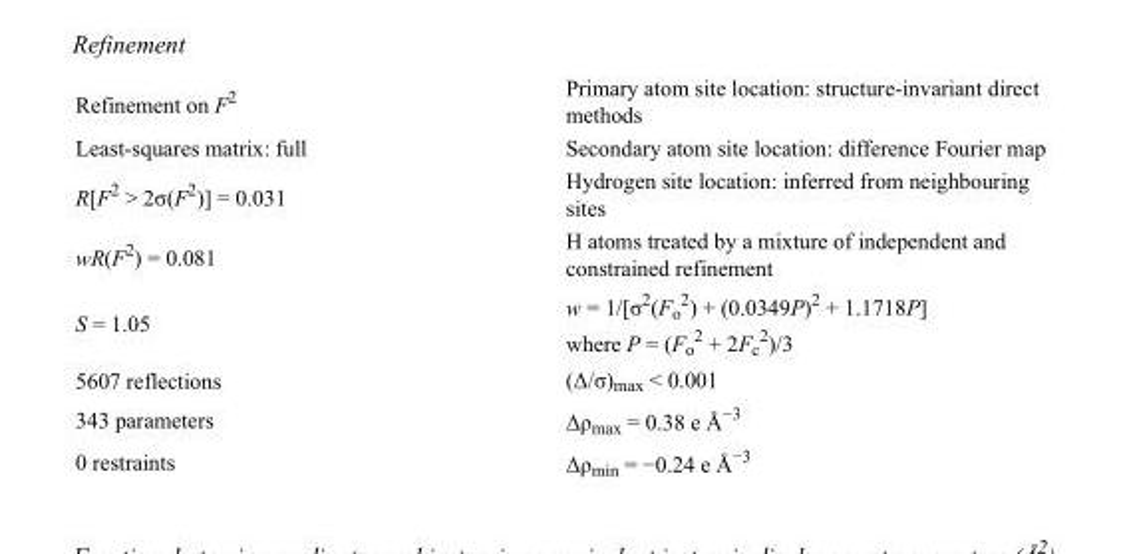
<table><tbody><tr><td>Refinement on F<sup>2</sup></td><td>Primary atom site location: structure-invariant direct methods</td></tr><tr><td>Least-squares matrix: full</td><td>Secondary atom site location: difference Fourier map</td></tr><tr><td>R[F<sup>2</sup> &gt; 2σ(F<sup>2</sup>)] = 0.031</td><td>Hydrogen site location: inferred from neighbouring sites</td></tr><tr><td>wR(F<sup>2</sup>) = 0.081</td><td>H atoms treated by a mixture of independent and constrained refinement</td></tr><tr><td>S = 1.05</td><td>w = 1/[σ<sup>2</sup>(F<sub>o</sub> <sup>2</sup>) + (0.0349P)<sup>2</sup> + 1.1718P] where P = (F<sub>o</sub> <sup>2</sup> + 2F<sub>c</sub> <sup>2</sup>)/3</td></tr><tr><td>5607 reflections</td><td>(Δ/σ)<sub>max</sub> &lt; 0.001</td></tr><tr><td>343 parameters</td><td>Δρ<sub>max</sub> = 0.38 e Å<sup>−3</sup></td></tr><tr><td>0 restraints</td><td>Δρ<sub>min</sub> = −0.24 e Å<sup>−3</sup></td></tr></tbody></table>